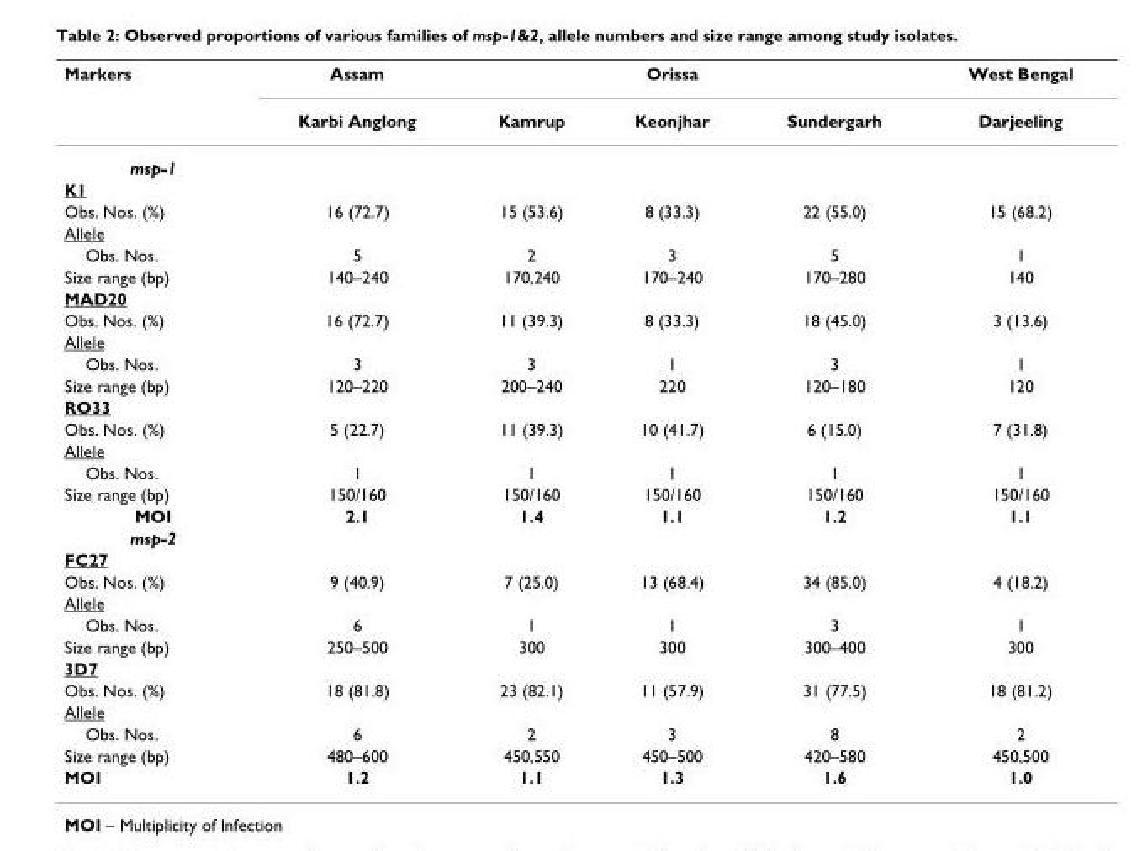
<table><thead><tr><td rowspan="2">Markers</td><td colspan="2">Assam</td><td colspan="2">Orissa</td><td rowspan="2">West Bengal Darjeeling</td></tr><tr><td>Karbi Anglong</td><td>Kamrup</td><td>Keonjhar</td><td>Sundergarh</td></tr></thead><tbody><tr><td colspan="6">msp-1</td></tr><tr><td colspan="6">K1</td></tr><tr><td>Obs. Nos. (%)</td><td>16 (72.7)</td><td>15 (53.6)</td><td>8 (33.3)</td><td>22 (55.0)</td><td>15 (68.2)</td></tr><tr><td colspan="6">Allele</td></tr><tr><td>Obs. Nos.</td><td>5</td><td>2</td><td>3</td><td>5</td><td>1</td></tr><tr><td>Size range (bp)</td><td>140–240</td><td>170,240</td><td>170–240</td><td>170–280</td><td>140</td></tr><tr><td colspan="6">MAD20</td></tr><tr><td>Obs. Nos. (%)</td><td>16 (72.7)</td><td>11 (39.3)</td><td>8 (33.3)</td><td>18 (45.0)</td><td>3 (13.6)</td></tr><tr><td colspan="6">Allele</td></tr><tr><td>Obs. Nos.</td><td>3</td><td>3</td><td>1</td><td>3</td><td>1</td></tr><tr><td>Size range (bp)</td><td>120–220</td><td>200–240</td><td>220</td><td>120–180</td><td>120</td></tr><tr><td colspan="6">RO33</td></tr><tr><td>Obs. Nos. (%)</td><td>5 (22.7)</td><td>11 (39.3)</td><td>10 (41.7)</td><td>6 (15.0)</td><td>7 (31.8)</td></tr><tr><td colspan="6">Allele</td></tr><tr><td>Obs. Nos.</td><td>1</td><td>1</td><td>1</td><td>1</td><td>1</td></tr><tr><td>Size range (bp)</td><td>150/160</td><td>150/160</td><td>150/160</td><td>150/160</td><td>150/160</td></tr><tr><td>MOI</td><td>2.1</td><td>1.4</td><td>1.1</td><td>1.2</td><td>1.1</td></tr><tr><td colspan="6">msp-2</td></tr><tr><td colspan="6">FC27</td></tr><tr><td>Obs. Nos. (%)</td><td>9 (40.9)</td><td>7 (25.0)</td><td>13 (68.4)</td><td>34 (85.0)</td><td>4 (18.2)</td></tr><tr><td colspan="6">Allele</td></tr><tr><td>Obs. Nos.</td><td>6</td><td>1</td><td>1</td><td>3</td><td>1</td></tr><tr><td>Size range (bp)</td><td>250–500</td><td>300</td><td>300</td><td>300–400</td><td>300</td></tr><tr><td colspan="6">3D7</td></tr><tr><td>Obs. Nos. (%)</td><td>18 (81.8)</td><td>23 (82.1)</td><td>11 (57.9)</td><td>31 (77.5)</td><td>18 (81.2)</td></tr><tr><td colspan="6">Allele</td></tr><tr><td>Obs. Nos.</td><td>6</td><td>2</td><td>3</td><td>8</td><td>2</td></tr><tr><td>Size range (bp)</td><td>480–600</td><td>450,550</td><td>450–500</td><td>420–580</td><td>450,500</td></tr><tr><td>MOI</td><td>1.2</td><td>1.1</td><td>1.3</td><td>1.6</td><td>1.0</td></tr></tbody></table>